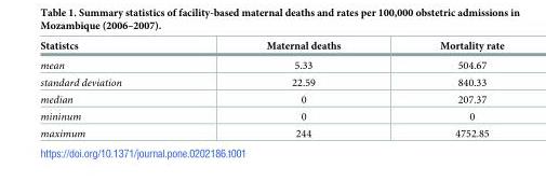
<table><thead><tr><td>Statistcs</td><td>Maternal deaths</td><td>Mortality rate</td></tr></thead><tbody><tr><td>mean</td><td>5.33</td><td>504.67</td></tr><tr><td>standard deviation</td><td>22.59</td><td>840.33</td></tr><tr><td>median</td><td>0</td><td>207.37</td></tr><tr><td>mininum</td><td>0</td><td>0</td></tr><tr><td>maximum</td><td>244</td><td>4752.85</td></tr></tbody></table>